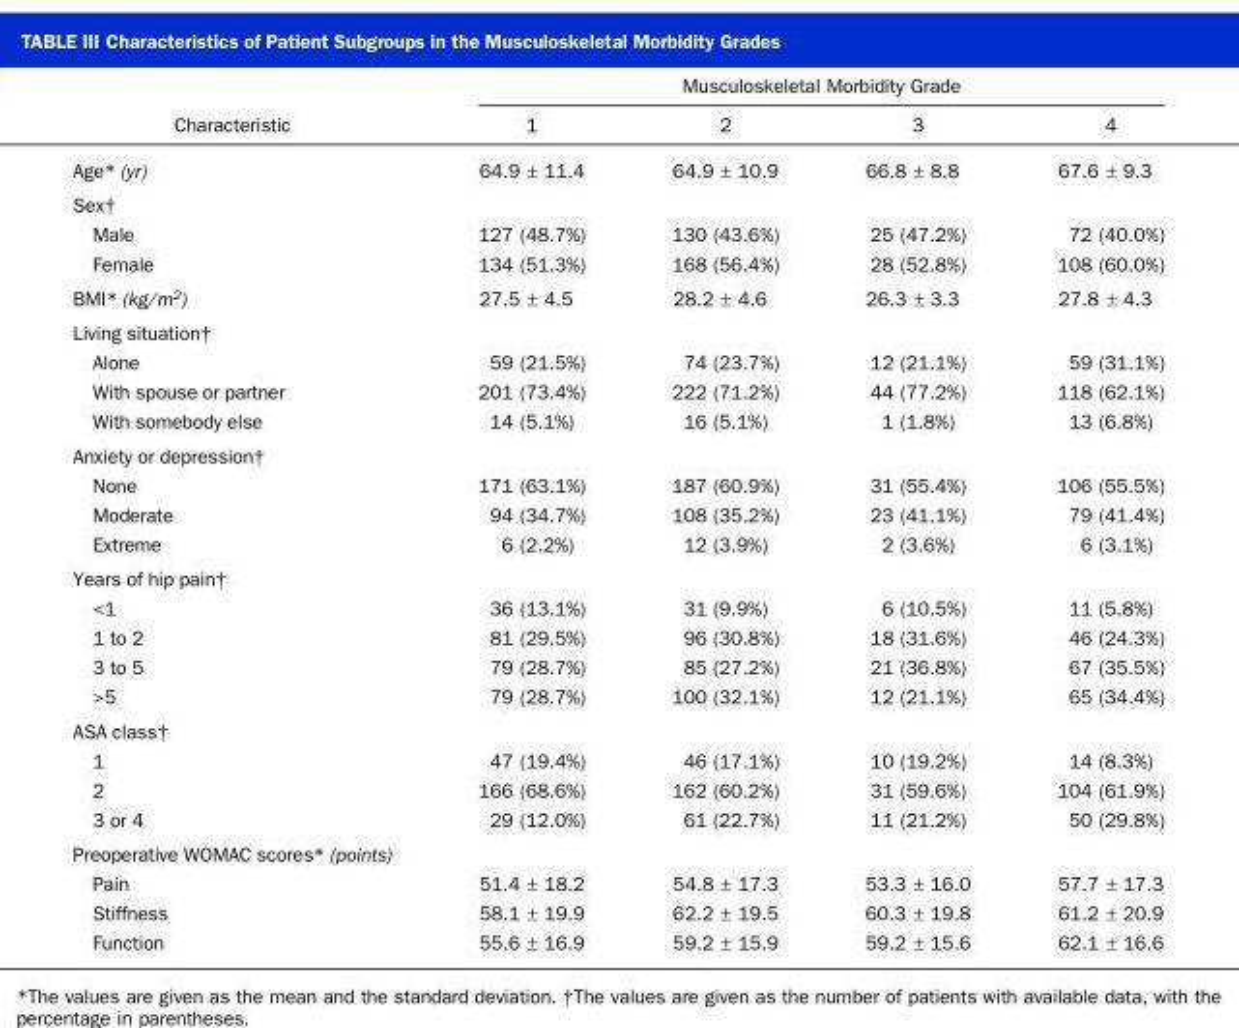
<table><thead><tr><td rowspan="2">Characteristic</td><td colspan="4">Musculoskeletal Morbidity Grade</td></tr><tr><td>1</td><td>2</td><td>3</td><td>4</td></tr></thead><tbody><tr><td>Age* (yr)</td><td>64.9 ± 11.4</td><td>64.9 ± 10.9</td><td>66.8 ± 8.8</td><td>67.6 ± 9.3</td></tr><tr><td colspan="5">Sex†</td></tr><tr><td>Male</td><td>127 (48.7%)</td><td>130 (43.6%)</td><td>25 (47.2%)</td><td>72 (40.0%)</td></tr><tr><td>Female</td><td>134 (51.3%)</td><td>168 (56.4%)</td><td>28 (52.8%)</td><td>108 (60.0%)</td></tr><tr><td>BMI* (kg/m<sup>2</sup>)</td><td>27.5 ± 4.5</td><td>28.2 ± 4.6</td><td>26.3 ± 3.3</td><td>27.8 ± 4.3</td></tr><tr><td colspan="5">Living situation†</td></tr><tr><td>Alone</td><td>59 (21.5%)</td><td>74 (23.7%)</td><td>12 (21.1%)</td><td>59 (31.1%)</td></tr><tr><td>With spouse or partner</td><td>201 (73.4%)</td><td>222 (71.2%)</td><td>44 (77.2%)</td><td>118 (62.1%)</td></tr><tr><td>With somebody else</td><td>14 (5.1%)</td><td>16 (5.1%)</td><td>1 (1.8%)</td><td>13 (6.8%)</td></tr><tr><td colspan="5">Anxiety or depression†</td></tr><tr><td>None</td><td>171 (63.1%)</td><td>187 (60.9%)</td><td>31 (55.4%)</td><td>106 (55.5%)</td></tr><tr><td>Moderate</td><td>94 (34.7%)</td><td>108 (35.2%)</td><td>23 (41.1%)</td><td>79 (41.4%)</td></tr><tr><td>Extreme</td><td>6 (2.2%)</td><td>12 (3.9%)</td><td>2 (3.6%)</td><td>6 (3.1%)</td></tr><tr><td colspan="5">Years of hip pain†</td></tr><tr><td>&lt;1</td><td>36 (13.1%)</td><td>31 (9.9%)</td><td>6 (10.5%)</td><td>11 (5.8%)</td></tr><tr><td>1 to 2</td><td>81 (29.5%)</td><td>96 (30.8%)</td><td>18 (31.6%)</td><td>46 (24.3%)</td></tr><tr><td>3 to 5</td><td>79 (28.7%)</td><td>85 (27.2%)</td><td>21 (36.8%)</td><td>67 (35.5%)</td></tr><tr><td>&gt;5</td><td>79 (28.7%)</td><td>100 (32.1%)</td><td>12 (21.1%)</td><td>65 (34.4%)</td></tr><tr><td colspan="5">ASA class†</td></tr><tr><td>1</td><td>47 (19.4%)</td><td>46 (17.1%)</td><td>10 (19.2%)</td><td>14 (8.3%)</td></tr><tr><td>2</td><td>166 (68.6%)</td><td>162 (60.2%)</td><td>31 (59.6%)</td><td>104 (61.9%)</td></tr><tr><td>3 or 4</td><td>29 (12.0%)</td><td>61 (22.7%)</td><td>11 (21.2%)</td><td>50 (29.8%)</td></tr><tr><td colspan="5">Preoperative WOMAC scores* (points)</td></tr><tr><td>Pain</td><td>51.4 ± 18.2</td><td>54.8 ± 17.3</td><td>53.3 ± 16.0</td><td>57.7 ± 17.3</td></tr><tr><td>Stiffness</td><td>58.1 ± 19.9</td><td>62.2 ± 19.5</td><td>60.3 ± 19.8</td><td>61.2 ± 20.9</td></tr><tr><td>Function</td><td>55.6 ± 16.9</td><td>59.2 ± 15.9</td><td>59.2 ± 15.6</td><td>62.1 ± 16.6</td></tr></tbody></table>